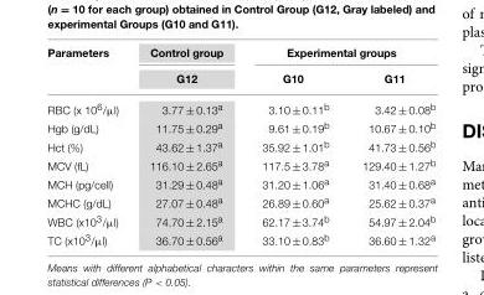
<table><thead><tr><td rowspan="2">Parameters</td><td rowspan="2">Control group G12</td><td colspan="2">Experimental groups</td></tr><tr><td>G10</td><td>G11</td></tr></thead><tbody><tr><td>RBC (x 10<sup>6</sup>/µl)</td><td>3.77 ± 0.13<sup>a</sup></td><td>3.10 ± 0.11<sup>b</sup></td><td>3.42 ± 0.08<sup>b</sup></td></tr><tr><td>Hgb (g/dL)</td><td>11.75 ± 0.29<sup>a</sup></td><td>9.61 ± 0.19<sup>b</sup></td><td>10.67 ± 0.10<sup>b</sup></td></tr><tr><td>Hct (%)</td><td>43.62 ± 1.37<sup>a</sup></td><td>35.92 ± 1.01<sup>b</sup></td><td>41.73 ± 0.56<sup>b</sup></td></tr><tr><td>MCV (fL)</td><td>116.10 ± 2.65<sup>a</sup></td><td>117.5 ± 3.78<sup>a</sup></td><td>129.40 ± 1.27<sup>b</sup></td></tr><tr><td>MCH (pg/cell)</td><td>31.29 ± 0.48<sup>a</sup></td><td>31.20 ± 1.06<sup>a</sup></td><td>31.40 ± 0.68<sup>a</sup></td></tr><tr><td>MCHC (g/dL)</td><td>27.07 ± 0.48<sup>a</sup></td><td>26.89 ± 0.60<sup>a</sup></td><td>25.62 ± 0.37<sup>a</sup></td></tr><tr><td>WBC (x10<sup>3</sup>/µl)</td><td>74.70 ± 2.15<sup>a</sup></td><td>62.17 ± 3.74<sup>b</sup></td><td>54.97 ± 2.04<sup>b</sup></td></tr><tr><td>TC (x10<sup>3</sup>/µl)</td><td>36.70 ± 0.56<sup>a</sup></td><td>33.10 ± 0.83<sup>b</sup></td><td>36.60 ± 1.32<sup>a</sup></td></tr></tbody></table>